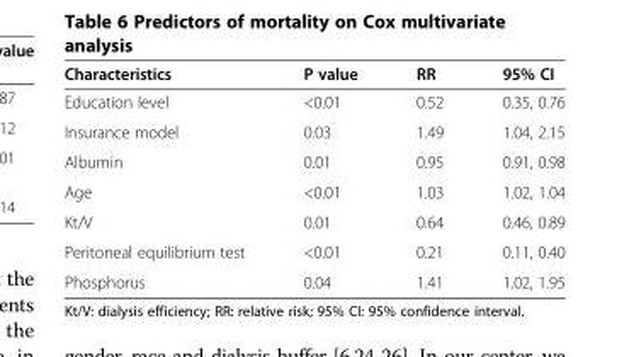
<table><thead><tr><td>Characteristics</td><td>P value</td><td>RR</td><td>95% CI</td></tr></thead><tbody><tr><td>Education level</td><td>&lt;0.01</td><td>0.52</td><td>0.35, 0.76</td></tr><tr><td>Insurance model</td><td>0.03</td><td>1.49</td><td>1.04, 2.15</td></tr><tr><td>Albumin</td><td>0.01</td><td>0.95</td><td>0.91, 0.98</td></tr><tr><td>Age</td><td>&lt;0.01</td><td>1.03</td><td>1.02, 1.04</td></tr><tr><td>Kt/V</td><td>0.01</td><td>0.64</td><td>0.46, 0.89</td></tr><tr><td>Peritoneal equilibrium test</td><td>&lt;0.01</td><td>0.21</td><td>0.11, 0.40</td></tr><tr><td>Phosphorus</td><td>0.04</td><td>1.41</td><td>1.02, 1.95</td></tr></tbody></table>